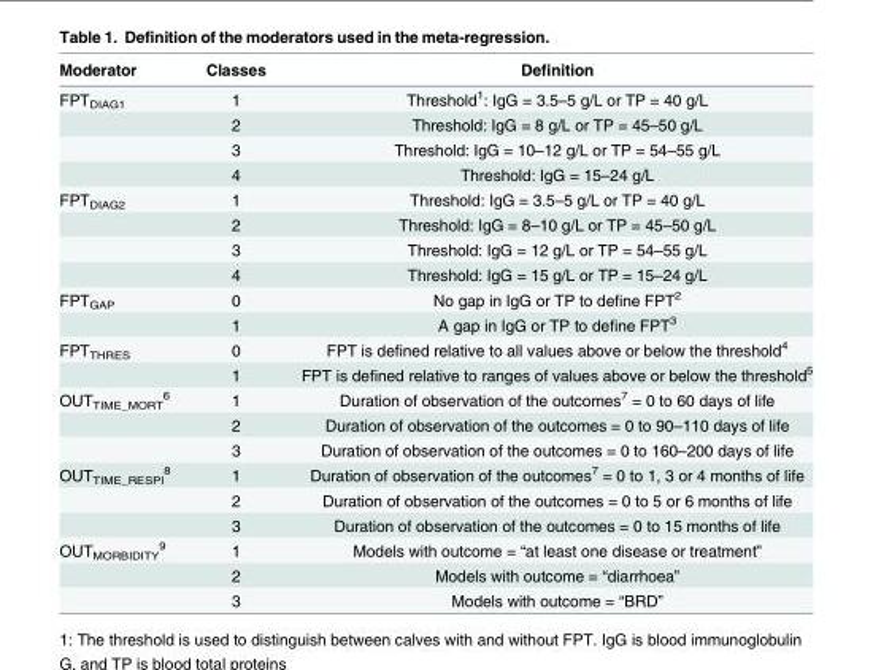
<table><thead><tr><td>Moderator</td><td>Classes</td><td>Definition</td></tr></thead><tbody><tr><td rowspan="4">FPT<sub>DIAG1</sub></td><td>1</td><td>Threshold<sup>1</sup>: IgG = 3.5–5 g/L or TP = 40 g/L</td></tr><tr><td>2</td><td>Threshold: IgG = 8 g/L or TP = 45–50 g/L</td></tr><tr><td>3</td><td>Threshold: IgG = 10–12 g/L or TP = 54–55 g/L</td></tr><tr><td>4</td><td>Threshold: IgG = 15–24 g/L</td></tr><tr><td rowspan="4">FPT<sub>DIAG2</sub></td><td>1</td><td>Threshold: IgG = 3.5–5 g/L or TP = 40 g/L</td></tr><tr><td>2</td><td>Threshold: IgG = 8–10 g/L or TP = 45–50 g/L</td></tr><tr><td>3</td><td>Threshold: IgG = 12 g/L or TP = 54–55 g/L</td></tr><tr><td>4</td><td>Threshold: IgG = 15 g/L or TP = 15–24 g/L</td></tr><tr><td rowspan="2">FPT<sub>GAP</sub></td><td>0</td><td>No gap in IgG or TP to define FPT<sup>2</sup></td></tr><tr><td>1</td><td>A gap in IgG or TP to define FPT<sup>3</sup></td></tr><tr><td rowspan="2">FPT<sub>THRES</sub></td><td>0</td><td>FPT is defined relative to all values above or below the threshold<sup>4</sup></td></tr><tr><td>1</td><td>FPT is defined relative to ranges of values above or below the threshold<sup>5</sup></td></tr><tr><td rowspan="3">OUT<sub>TIME_MORT</sub> <sup>6</sup></td><td>1</td><td>Duration of observation of the outcomes<sup>7</sup> = 0 to 60 days of life</td></tr><tr><td>2</td><td>Duration of observation of the outcomes = 0 to 90–110 days of life</td></tr><tr><td>3</td><td>Duration of observation of the outcomes = 0 to 160–200 days of life</td></tr><tr><td rowspan="3">OUT<sub>TIME_RESPI</sub> <sup>8</sup></td><td>1</td><td>Duration of observation of the outcomes<sup>7</sup> = 0 to 1, 3 or 4 months of life</td></tr><tr><td>2</td><td>Duration of observation of the outcomes = 0 to 5 or 6 months of life</td></tr><tr><td>3</td><td>Duration of observation of the outcomes = 0 to 15 months of life</td></tr><tr><td rowspan="3">OUT<sub>MORBIDITY</sub> <sup>9</sup></td><td>1</td><td>Models with outcome = “at least one disease or treatment”</td></tr><tr><td>2</td><td>Models with outcome = “diarrhoea”</td></tr><tr><td>3</td><td>Models with outcome = “BRD”</td></tr></tbody></table>